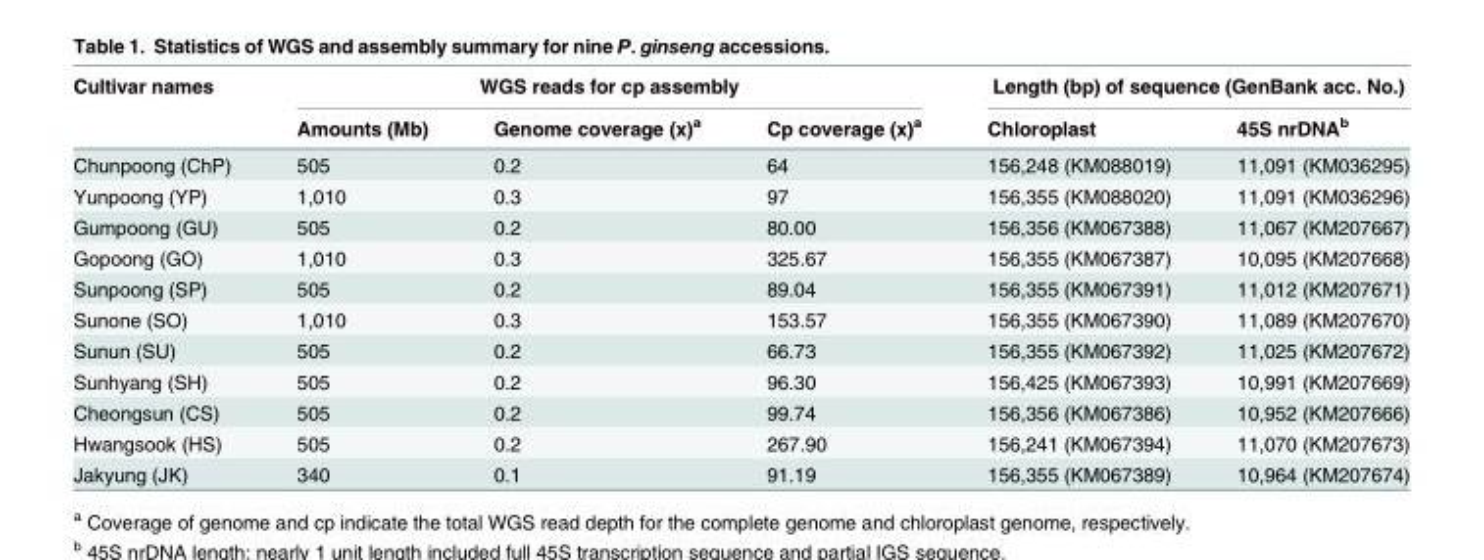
<table><thead><tr><td rowspan="2">Cultivar names</td><td colspan="3">WGS reads for cp assembly</td><td colspan="2">Length (bp) of sequence (GenBank acc. No.)</td></tr><tr><td>Amounts (Mb)</td><td>Genome coverage (x)<sup>a</sup></td><td>Cp coverage (x)<sup>a</sup></td><td>Chloroplast</td><td>45S nrDNA<sup>b</sup></td></tr></thead><tbody><tr><td>Chunpoong (ChP)</td><td>505</td><td>0.2</td><td>64</td><td>156,248 (KM088019)</td><td>11,091 (KM036295)</td></tr><tr><td>Yunpoong (YP)</td><td>1,010</td><td>0.3</td><td>97</td><td>156,355 (KM088020)</td><td>11,091 (KM036296)</td></tr><tr><td>Gumpoong (GU)</td><td>505</td><td>0.2</td><td>80.00</td><td>156,356 (KM067388)</td><td>11,067 (KM207667)</td></tr><tr><td>Gopoong (GO)</td><td>1,010</td><td>0.3</td><td>325.67</td><td>156,355 (KM067387)</td><td>10,095 (KM207668)</td></tr><tr><td>Sunpoong (SP)</td><td>505</td><td>0.2</td><td>89.04</td><td>156,355 (KM067391)</td><td>11,012 (KM207671)</td></tr><tr><td>Sunone (SO)</td><td>1,010</td><td>0.3</td><td>153.57</td><td>156,355 (KM067390)</td><td>11,089 (KM207670)</td></tr><tr><td>Sunun (SU)</td><td>505</td><td>0.2</td><td>66.73</td><td>156,355 (KM067392)</td><td>11,025 (KM207672)</td></tr><tr><td>Sunhyang (SH)</td><td>505</td><td>0.2</td><td>96.30</td><td>156,425 (KM067393)</td><td>10,991 (KM207669)</td></tr><tr><td>Cheongsun (CS)</td><td>505</td><td>0.2</td><td>99.74</td><td>156,356 (KM067386)</td><td>10,952 (KM207666)</td></tr><tr><td>Hwangsook (HS)</td><td>505</td><td>0.2</td><td>267.90</td><td>156,241 (KM067394)</td><td>11,070 (KM207673)</td></tr><tr><td>Jakyung (JK)</td><td>340</td><td>0.1</td><td>91.19</td><td>156,355 (KM067389)</td><td>10,964 (KM207674)</td></tr></tbody></table>